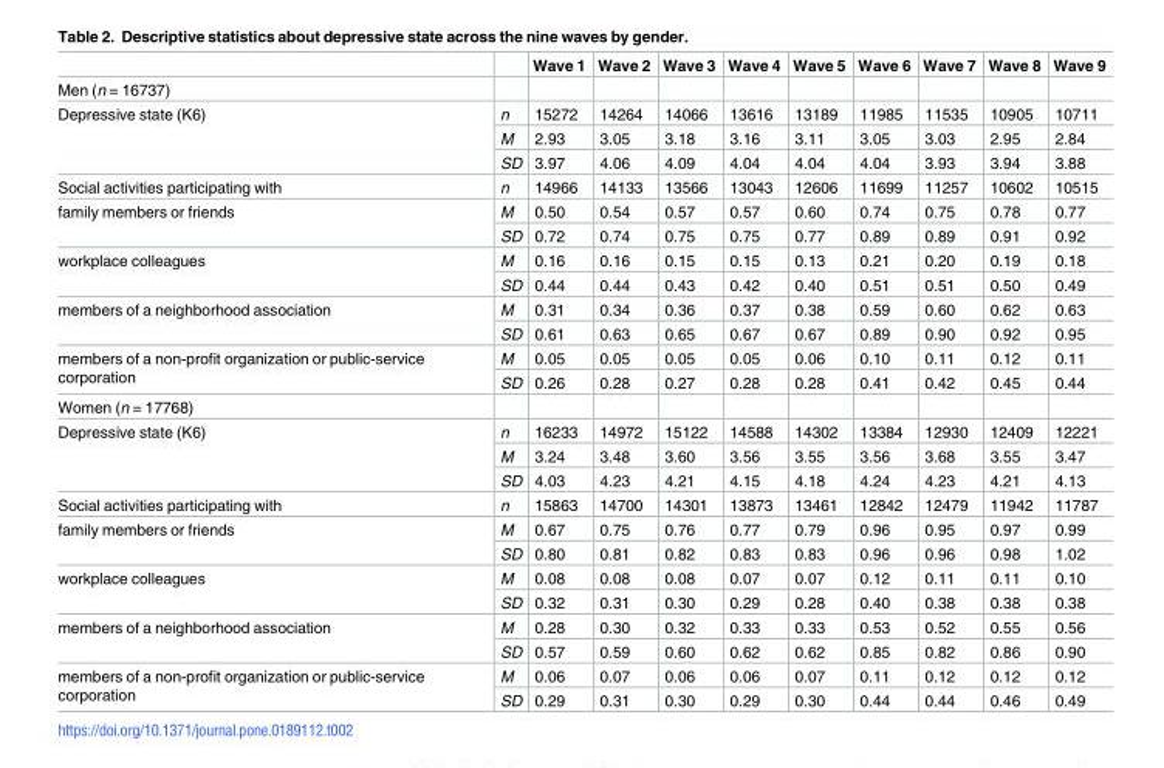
<table><thead><tr><td></td><td></td><td>Wave 1</td><td>Wave 2</td><td>Wave 3</td><td>Wave 4</td><td>Wave 5</td><td>Wave 6</td><td>Wave 7</td><td>Wave 8</td><td>Wave 9</td></tr></thead><tbody><tr><td colspan="11">Men (n = 16737)</td></tr><tr><td rowspan="3">Depressive state (K6)</td><td>n</td><td>15272</td><td>14264</td><td>14066</td><td>13616</td><td>13189</td><td>11985</td><td>11535</td><td>10905</td><td>10711</td></tr><tr><td>M</td><td>2.93</td><td>3.05</td><td>3.18</td><td>3.16</td><td>3.11</td><td>3.05</td><td>3.03</td><td>2.95</td><td>2.84</td></tr><tr><td>SD</td><td>3.97</td><td>4.06</td><td>4.09</td><td>4.04</td><td>4.04</td><td>4.04</td><td>3.93</td><td>3.94</td><td>3.88</td></tr><tr><td>Social activities participating with</td><td>n</td><td>14966</td><td>14133</td><td>13566</td><td>13043</td><td>12606</td><td>11699</td><td>11257</td><td>10602</td><td>10515</td></tr><tr><td rowspan="2">family members or friends</td><td>M</td><td>0.50</td><td>0.54</td><td>0.57</td><td>0.57</td><td>0.60</td><td>0.74</td><td>0.75</td><td>0.78</td><td>0.77</td></tr><tr><td>SD</td><td>0.72</td><td>0.74</td><td>0.75</td><td>0.75</td><td>0.77</td><td>0.89</td><td>0.89</td><td>0.91</td><td>0.92</td></tr><tr><td rowspan="2">workplace colleagues</td><td>M</td><td>0.16</td><td>0.16</td><td>0.15</td><td>0.15</td><td>0.13</td><td>0.21</td><td>0.20</td><td>0.19</td><td>0.18</td></tr><tr><td>SD</td><td>0.44</td><td>0.44</td><td>0.43</td><td>0.42</td><td>0.40</td><td>0.51</td><td>0.51</td><td>0.50</td><td>0.49</td></tr><tr><td rowspan="2">members of a neighborhood association</td><td>M</td><td>0.31</td><td>0.34</td><td>0.36</td><td>0.37</td><td>0.38</td><td>0.59</td><td>0.60</td><td>0.62</td><td>0.63</td></tr><tr><td>SD</td><td>0.61</td><td>0.63</td><td>0.65</td><td>0.67</td><td>0.67</td><td>0.89</td><td>0.90</td><td>0.92</td><td>0.95</td></tr><tr><td rowspan="2">members of a non-profit organization or public-service corporation</td><td>M</td><td>0.05</td><td>0.05</td><td>0.05</td><td>0.05</td><td>0.06</td><td>0.10</td><td>0.11</td><td>0.12</td><td>0.11</td></tr><tr><td>SD</td><td>0.26</td><td>0.28</td><td>0.27</td><td>0.28</td><td>0.28</td><td>0.41</td><td>0.42</td><td>0.45</td><td>0.44</td></tr><tr><td colspan="11">Women (n = 17768)</td></tr><tr><td rowspan="3">Depressive state (K6)</td><td>n</td><td>16233</td><td>14972</td><td>15122</td><td>14588</td><td>14302</td><td>13384</td><td>12930</td><td>12409</td><td>12221</td></tr><tr><td>M</td><td>3.24</td><td>3.48</td><td>3.60</td><td>3.56</td><td>3.55</td><td>3.56</td><td>3.68</td><td>3.55</td><td>3.47</td></tr><tr><td>SD</td><td>4.03</td><td>4.23</td><td>4.21</td><td>4.15</td><td>4.18</td><td>4.24</td><td>4.23</td><td>4.21</td><td>4.13</td></tr><tr><td>Social activities participating with</td><td>n</td><td>15863</td><td>14700</td><td>14301</td><td>13873</td><td>13461</td><td>12842</td><td>12479</td><td>11942</td><td>11787</td></tr><tr><td rowspan="2">family members or friends</td><td>M</td><td>0.67</td><td>0.75</td><td>0.76</td><td>0.77</td><td>0.79</td><td>0.96</td><td>0.95</td><td>0.97</td><td>0.99</td></tr><tr><td>SD</td><td>0.80</td><td>0.81</td><td>0.82</td><td>0.83</td><td>0.83</td><td>0.96</td><td>0.96</td><td>0.98</td><td>1.02</td></tr><tr><td rowspan="2">workplace colleagues</td><td>M</td><td>0.08</td><td>0.08</td><td>0.08</td><td>0.07</td><td>0.07</td><td>0.12</td><td>0.11</td><td>0.11</td><td>0.10</td></tr><tr><td>SD</td><td>0.32</td><td>0.31</td><td>0.30</td><td>0.29</td><td>0.28</td><td>0.40</td><td>0.38</td><td>0.38</td><td>0.38</td></tr><tr><td rowspan="2">members of a neighborhood association</td><td>M</td><td>0.28</td><td>0.30</td><td>0.32</td><td>0.33</td><td>0.33</td><td>0.53</td><td>0.52</td><td>0.55</td><td>0.56</td></tr><tr><td>SD</td><td>0.57</td><td>0.59</td><td>0.60</td><td>0.62</td><td>0.62</td><td>0.85</td><td>0.82</td><td>0.86</td><td>0.90</td></tr><tr><td rowspan="2">members of a non-profit organization or public-service corporation</td><td>M</td><td>0.06</td><td>0.07</td><td>0.06</td><td>0.06</td><td>0.07</td><td>0.11</td><td>0.12</td><td>0.12</td><td>0.12</td></tr><tr><td>SD</td><td>0.29</td><td>0.31</td><td>0.30</td><td>0.29</td><td>0.30</td><td>0.44</td><td>0.44</td><td>0.46</td><td>0.49</td></tr></tbody></table>